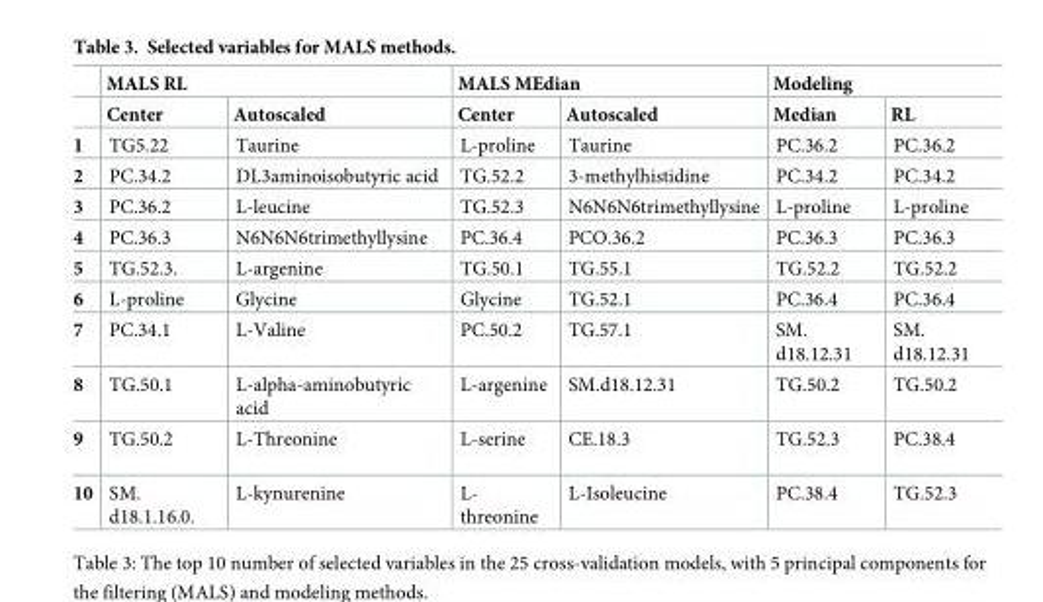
<table><thead><tr><td rowspan="2"></td><td colspan="2">MALS RL</td><td colspan="2">MALS MEdian</td><td colspan="2">Modeling</td></tr><tr><td>Center</td><td>Autoscaled</td><td>Center</td><td>Autoscaled</td><td>Median</td><td>RL</td></tr></thead><tbody><tr><td>1</td><td>TG5.22</td><td>Taurine</td><td>L-proline</td><td>Taurine</td><td>PC.36.2</td><td>PC.36.2</td></tr><tr><td>2</td><td>PC.34.2</td><td>DL3aminoisobutyric acid</td><td>TG.52.2</td><td>3-methylhistidine</td><td>PC.34.2</td><td>PC.34.2</td></tr><tr><td>3</td><td>PC.36.2</td><td>L-leucine</td><td>TG.52.3</td><td>N6N6N6trimethyllysine</td><td>L-proline</td><td>L-proline</td></tr><tr><td>4</td><td>PC.36.3</td><td>N6N6N6trimethyllysine</td><td>PC.36.4</td><td>PCO.36.2</td><td>PC.36.3</td><td>PC.36.3</td></tr><tr><td>5</td><td>TG.52.3.</td><td>L-argenine</td><td>TG.50.1</td><td>TG.55.1</td><td>TG.52.2</td><td>TG.52.2</td></tr><tr><td>6</td><td>L-proline</td><td>Glycine</td><td>Glycine</td><td>TG.52.1</td><td>PC.36.4</td><td>PC.36.4</td></tr><tr><td>7</td><td>PC.34.1</td><td>L-Valine</td><td>PC.50.2</td><td>TG.57.1</td><td>SM. d18.12.31</td><td>SM. d18.12.31</td></tr><tr><td>8</td><td>TG.50.1</td><td>L-alpha-aminobutyric acid</td><td>L-argenine</td><td>SM.d18.12.31</td><td>TG.50.2</td><td>TG.50.2</td></tr><tr><td>9</td><td>TG.50.2</td><td>L-Threonine</td><td>L-serine</td><td>CE.18.3</td><td>TG.52.3</td><td>PC.38.4</td></tr><tr><td>10</td><td>SM. d18.1.16.0.</td><td>L-kynurenine</td><td>L- threonine</td><td>L-Isoleucine</td><td>PC.38.4</td><td>TG.52.3</td></tr></tbody></table>